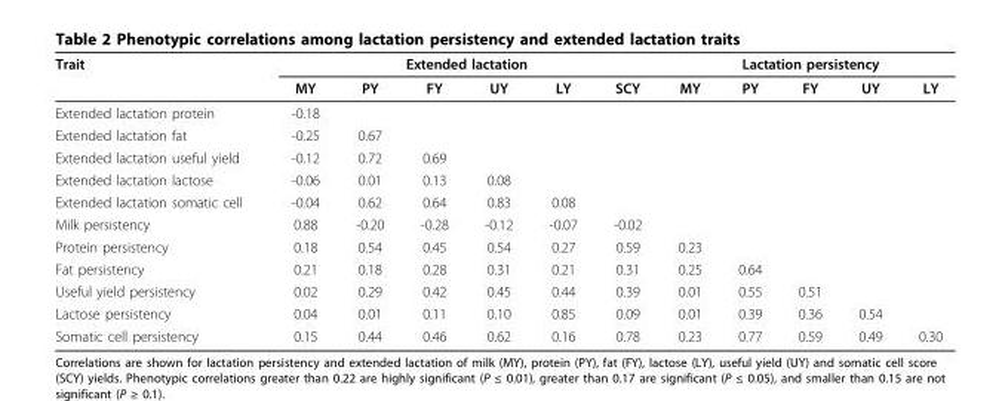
<table><thead><tr><td rowspan="2">Trait</td><td colspan="6">Extended lactation</td><td colspan="5">Lactation persistency</td></tr><tr><td>MY</td><td>PY</td><td>FY</td><td>UY</td><td>LY</td><td>SCY</td><td>MY</td><td>PY</td><td>FY</td><td>UY</td><td>LY</td></tr></thead><tbody><tr><td>Extended lactation protein</td><td>-0.18</td><td></td><td></td><td></td><td></td><td></td><td></td><td></td><td></td><td></td><td></td></tr><tr><td>Extended lactation fat</td><td>-0.25</td><td>0.67</td><td></td><td></td><td></td><td></td><td></td><td></td><td></td><td></td><td></td></tr><tr><td>Extended lactation useful yield</td><td>-0.12</td><td>0.72</td><td>0.69</td><td></td><td></td><td></td><td></td><td></td><td></td><td></td><td></td></tr><tr><td>Extended lactation lactose</td><td>-0.06</td><td>0.01</td><td>0.13</td><td>0.08</td><td></td><td></td><td></td><td></td><td></td><td></td><td></td></tr><tr><td>Extended lactation somatic cell</td><td>-0.04</td><td>0.62</td><td>0.64</td><td>0.83</td><td>0.08</td><td></td><td></td><td></td><td></td><td></td><td></td></tr><tr><td>Milk persistency</td><td>0.88</td><td>-0.20</td><td>-0.28</td><td>-0.12</td><td>-0.07</td><td>-0.02</td><td></td><td></td><td></td><td></td><td></td></tr><tr><td>Protein persistency</td><td>0.18</td><td>0.54</td><td>0.45</td><td>0.54</td><td>0.27</td><td>0.59</td><td>0.23</td><td></td><td></td><td></td><td></td></tr><tr><td>Fat persistency</td><td>0.21</td><td>0.18</td><td>0.28</td><td>0.31</td><td>0.21</td><td>0.31</td><td>0.25</td><td>0.64</td><td></td><td></td><td></td></tr><tr><td>Useful yield persistency</td><td>0.02</td><td>0.29</td><td>0.42</td><td>0.45</td><td>0.44</td><td>0.39</td><td>0.01</td><td>0.55</td><td>0.51</td><td></td><td></td></tr><tr><td>Lactose persistency</td><td>0.04</td><td>0.01</td><td>0.11</td><td>0.10</td><td>0.85</td><td>0.09</td><td>0.01</td><td>0.39</td><td>0.36</td><td>0.54</td><td></td></tr><tr><td>Somatic cell persistency</td><td>0.15</td><td>0.44</td><td>0.46</td><td>0.62</td><td>0.16</td><td>0.78</td><td>0.23</td><td>0.77</td><td>0.59</td><td>0.49</td><td>0.30</td></tr></tbody></table>